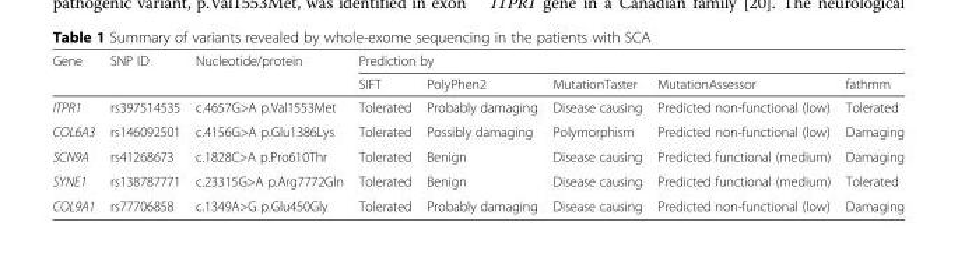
<table><thead><tr><td rowspan="2">Gene</td><td rowspan="2">SNP ID</td><td rowspan="2">Nucleotide/protein</td><td colspan="5">Prediction by</td></tr><tr><td>SIFT</td><td>PolyPhen2</td><td>MutationTaster</td><td>MutationAssessor</td><td>fathmm</td></tr></thead><tbody><tr><td>ITPR1</td><td>rs397514535</td><td>c.4657G&gt;A p.Val1553Met</td><td>Tolerated</td><td>Probably damaging</td><td>Disease causing</td><td>Predicted non-functional (low)</td><td>Tolerated</td></tr><tr><td>COL6A3</td><td>rs146092501</td><td>c.4156G&gt;A p.Glu1386Lys</td><td>Tolerated</td><td>Possibly damaging</td><td>Polymorphism</td><td>Predicted non-functional (low)</td><td>Damaging</td></tr><tr><td>SCN9A</td><td>rs41268673</td><td>c.1828C&gt;A p.Pro610Thr</td><td>Tolerated</td><td>Benign</td><td>Disease causing</td><td>Predicted functional (medium)</td><td>Damaging</td></tr><tr><td>SYNE1</td><td>rs138787771</td><td>c.23315G&gt;A p.Arg7772Gln</td><td>Tolerated</td><td>Benign</td><td>Disease causing</td><td>Predicted functional (medium)</td><td>Tolerated</td></tr><tr><td>COL9A1</td><td>rs77706858</td><td>c.1349A&gt;G p.Glu450Gly</td><td>Tolerated</td><td>Probably damaging</td><td>Disease causing</td><td>Predicted non-functional (low)</td><td>Damaging</td></tr></tbody></table>